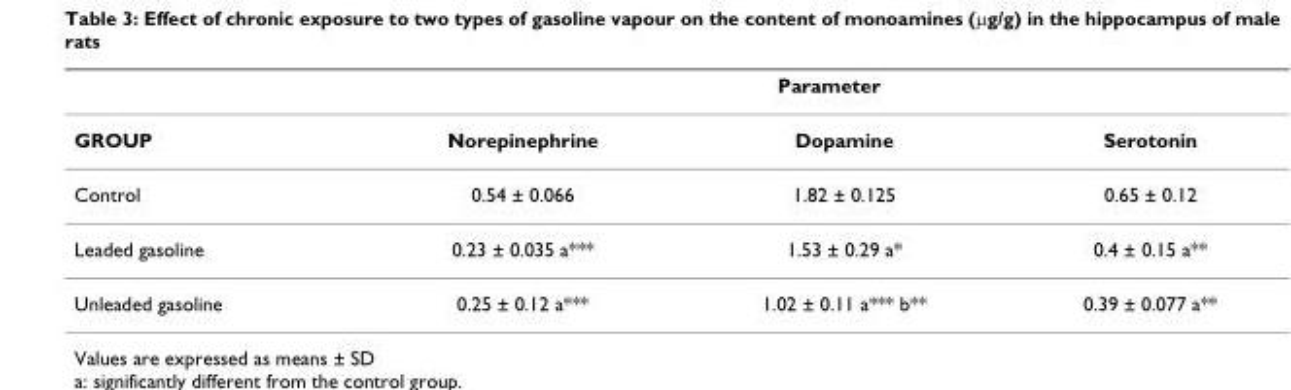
<table><thead><tr><td rowspan="2">GROUP</td><td colspan="3">Parameter</td></tr><tr><td>Norepinephrine</td><td>Dopamine</td><td>Serotonin</td></tr></thead><tbody><tr><td>Control</td><td>0.54 ± 0.066</td><td>1.82 ± 0.125</td><td>0.65 ± 0.12</td></tr><tr><td>Leaded gasoline</td><td>0.23 ± 0.035 a***</td><td>1.53 ± 0.29 a*</td><td>0.4 ± 0.15 a**</td></tr><tr><td>Unleaded gasoline</td><td>0.25 ± 0.12 a***</td><td>1.02 ± 0.11 a*** b**</td><td>0.39 ± 0.077 a**</td></tr></tbody></table>